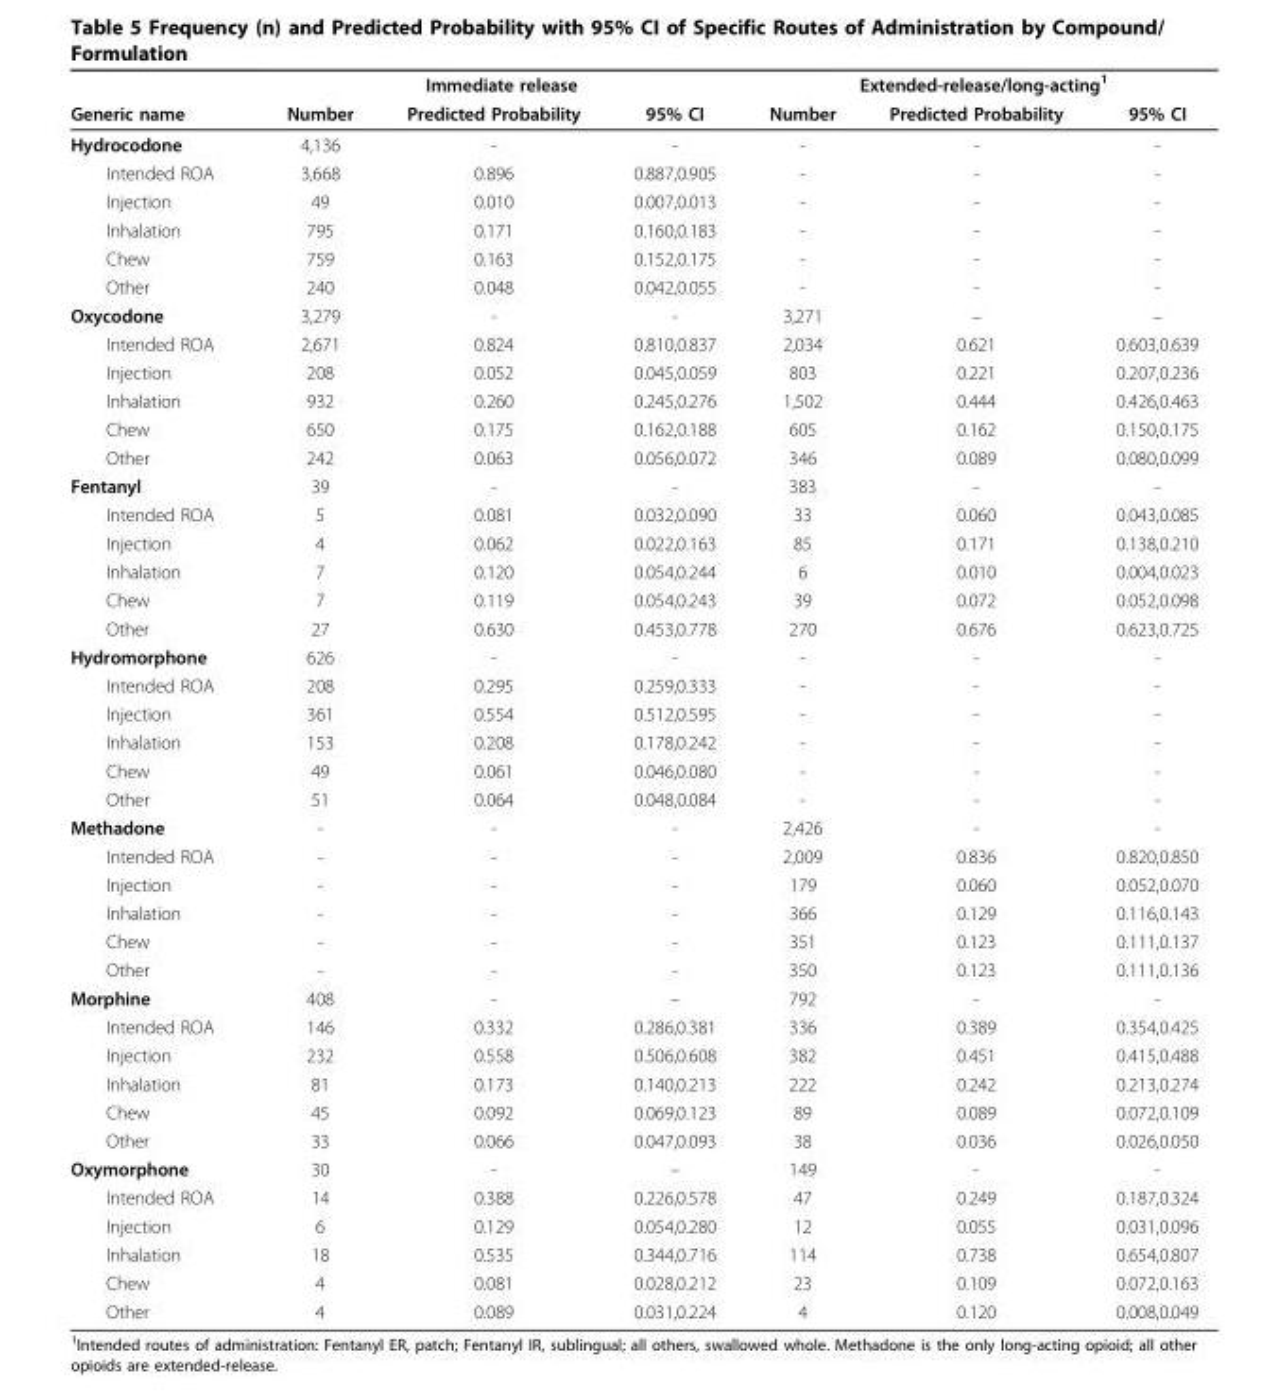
<table><thead><tr><td rowspan="2">Generic name</td><td colspan="3">Immediate release</td><td colspan="3">Extended-release/long-acting<sup>1</sup></td></tr><tr><td>Number</td><td>Predicted Probability</td><td>95% CI</td><td>Number</td><td>Predicted Probability</td><td>95% CI</td></tr></thead><tbody><tr><td>Hydrocodone</td><td>4,136</td><td>-</td><td>-</td><td>-</td><td>-</td><td>-</td></tr><tr><td>Intended ROA</td><td>3,668</td><td>0.896</td><td>0.887,0.905</td><td>-</td><td>-</td><td>-</td></tr><tr><td>Injection</td><td>49</td><td>0.010</td><td>0.007,0.013</td><td>-</td><td>-</td><td>-</td></tr><tr><td>Inhalation</td><td>795</td><td>0.171</td><td>0.160,0.183</td><td>-</td><td>-</td><td>-</td></tr><tr><td>Chew</td><td>759</td><td>0.163</td><td>0.152,0.175</td><td>-</td><td>-</td><td>-</td></tr><tr><td>Other</td><td>240</td><td>0.048</td><td>0.042,0.055</td><td>-</td><td>-</td><td>-</td></tr><tr><td>Oxycodone</td><td>3,279</td><td>-</td><td>-</td><td>3,271</td><td>–</td><td>–</td></tr><tr><td>Intended ROA</td><td>2,671</td><td>0.824</td><td>0.810,0.837</td><td>2,034</td><td>0.621</td><td>0.603,0.639</td></tr><tr><td>Injection</td><td>208</td><td>0.052</td><td>0.045,0.059</td><td>803</td><td>0.221</td><td>0.207,0.236</td></tr><tr><td>Inhalation</td><td>932</td><td>0.260</td><td>0.245,0.276</td><td>1,502</td><td>0.444</td><td>0.426,0.463</td></tr><tr><td>Chew</td><td>650</td><td>0.175</td><td>0.162,0.188</td><td>605</td><td>0.162</td><td>0.150,0.175</td></tr><tr><td>Other</td><td>242</td><td>0.063</td><td>0.056,0.072</td><td>346</td><td>0.089</td><td>0.080,0.099</td></tr><tr><td>Fentanyl</td><td>39</td><td>-</td><td>-</td><td>383</td><td>-</td><td>-</td></tr><tr><td>Intended ROA</td><td>5</td><td>0.081</td><td>0.032,0.090</td><td>33</td><td>0.060</td><td>0.043,0.085</td></tr><tr><td>Injection</td><td>4</td><td>0.062</td><td>0.022,0.163</td><td>85</td><td>0.171</td><td>0.138,0.210</td></tr><tr><td>Inhalation</td><td>7</td><td>0.120</td><td>0.054,0.244</td><td>6</td><td>0.010</td><td>0.004,0.023</td></tr><tr><td>Chew</td><td>7</td><td>0.119</td><td>0.054,0.243</td><td>39</td><td>0.072</td><td>0.052,0.098</td></tr><tr><td>Other</td><td>27</td><td>0.630</td><td>0.453,0.778</td><td>270</td><td>0.676</td><td>0.623,0.725</td></tr><tr><td>Hydromorphone</td><td>626</td><td>-</td><td>-</td><td>-</td><td>-</td><td>-</td></tr><tr><td>Intended ROA</td><td>208</td><td>0.295</td><td>0.259,0.333</td><td>-</td><td>-</td><td>-</td></tr><tr><td>Injection</td><td>361</td><td>0.554</td><td>0.512,0.595</td><td>-</td><td>-</td><td>-</td></tr><tr><td>Inhalation</td><td>153</td><td>0.208</td><td>0.178,0.242</td><td>-</td><td>-</td><td>-</td></tr><tr><td>Chew</td><td>49</td><td>0.061</td><td>0.046,0.080</td><td>-</td><td>-</td><td>-</td></tr><tr><td>Other</td><td>51</td><td>0.064</td><td>0.048,0.084</td><td>-</td><td>-</td><td>-</td></tr><tr><td>Methadone</td><td>-</td><td>-</td><td>-</td><td>2,426</td><td>-</td><td>-</td></tr><tr><td>Intended ROA</td><td>-</td><td>-</td><td>-</td><td>2,009</td><td>0.836</td><td>0.820,0.850</td></tr><tr><td>Injection</td><td>-</td><td>-</td><td>-</td><td>179</td><td>0.060</td><td>0.052,0.070</td></tr><tr><td>Inhalation</td><td>-</td><td>-</td><td>-</td><td>366</td><td>0.129</td><td>0.116,0.143</td></tr><tr><td>Chew</td><td>-</td><td>-</td><td>-</td><td>351</td><td>0.123</td><td>0.111,0.137</td></tr><tr><td>Other</td><td>-</td><td>-</td><td>-</td><td>350</td><td>0.123</td><td>0.111,0.136</td></tr><tr><td>Morphine</td><td>408</td><td>-</td><td>–</td><td>792</td><td>-</td><td>-</td></tr><tr><td>Intended ROA</td><td>146</td><td>0.332</td><td>0.286,0.381</td><td>336</td><td>0.389</td><td>0.354,0.425</td></tr><tr><td>Injection</td><td>232</td><td>0.558</td><td>0.506,0.608</td><td>382</td><td>0.451</td><td>0.415,0.488</td></tr><tr><td>Inhalation</td><td>81</td><td>0.173</td><td>0.140,0.213</td><td>222</td><td>0.242</td><td>0.213,0.274</td></tr><tr><td>Chew</td><td>45</td><td>0.092</td><td>0.069,0.123</td><td>89</td><td>0.089</td><td>0.072,0.109</td></tr><tr><td>Other</td><td>33</td><td>0.066</td><td>0.047,0.093</td><td>38</td><td>0.036</td><td>0.026,0.050</td></tr><tr><td>Oxymorphone</td><td>30</td><td>-</td><td>–</td><td>149</td><td>-</td><td>-</td></tr><tr><td>Intended ROA</td><td>14</td><td>0.388</td><td>0.226,0.578</td><td>47</td><td>0.249</td><td>0.187,0.324</td></tr><tr><td>Injection</td><td>6</td><td>0.129</td><td>0.054,0.280</td><td>12</td><td>0.055</td><td>0.031,0.096</td></tr><tr><td>Inhalation</td><td>18</td><td>0.535</td><td>0.344,0.716</td><td>114</td><td>0.738</td><td>0.654,0.807</td></tr><tr><td>Chew</td><td>4</td><td>0.081</td><td>0.028,0.212</td><td>23</td><td>0.109</td><td>0.072,0.163</td></tr><tr><td>Other</td><td>4</td><td>0.089</td><td>0.031,0.224</td><td>4</td><td>0.120</td><td>0.008,0.049</td></tr></tbody></table>